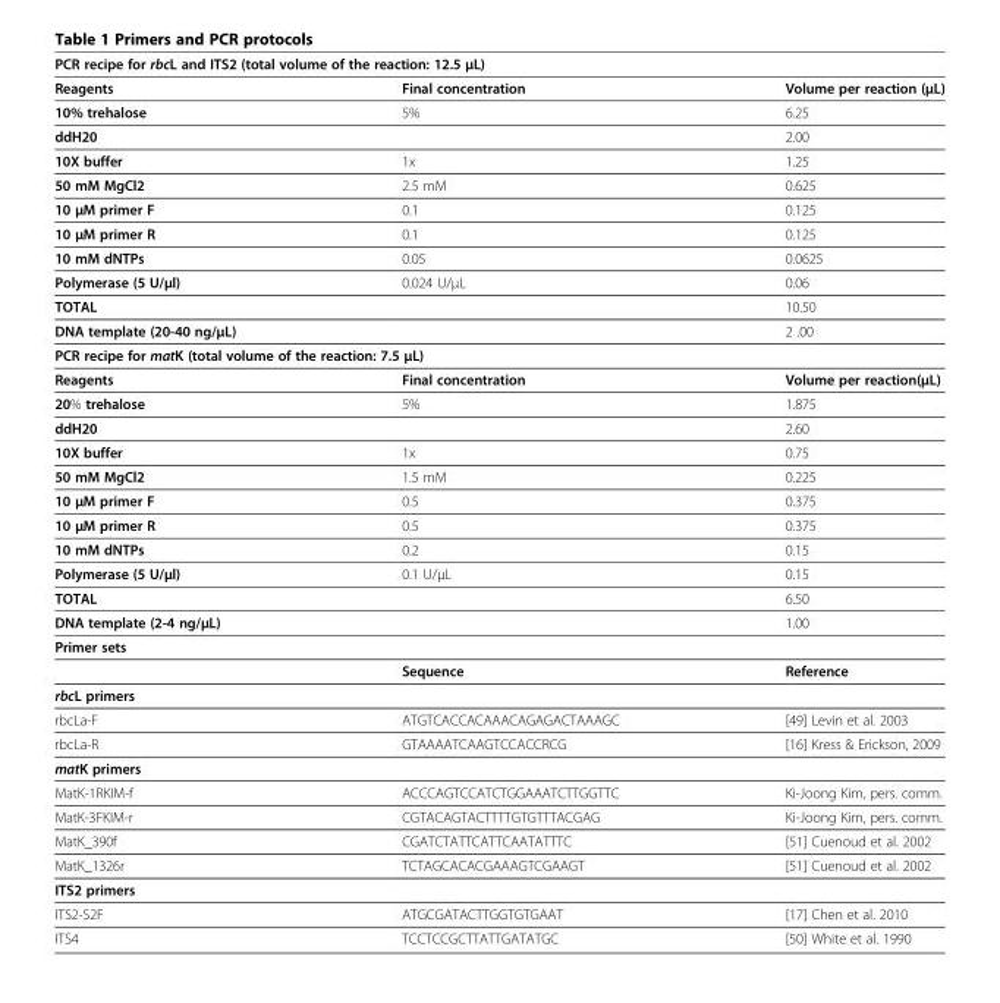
<table><tbody><tr><td colspan="3">PCR recipe for rbcL and ITS2 (total volume of the reaction: 12.5 μL)</td></tr><tr><td>Reagents</td><td>Final concentration</td><td>Volume per reaction (μL)</td></tr><tr><td>10% trehalose</td><td>5%</td><td>6.25</td></tr><tr><td>ddH20</td><td></td><td>2.00</td></tr><tr><td>10X buffer</td><td>1x</td><td>1.25</td></tr><tr><td>50 mM MgCl2</td><td>2.5 mM</td><td>0.625</td></tr><tr><td>10 μM primer F</td><td>0.1</td><td>0.125</td></tr><tr><td>10 μM primer R</td><td>0.1</td><td>0.125</td></tr><tr><td>10 mM dNTPs</td><td>0.05</td><td>0.0625</td></tr><tr><td>Polymerase (5 U/μl)</td><td>0.024 U/μL</td><td>0.06</td></tr><tr><td>TOTAL</td><td></td><td>10.50</td></tr><tr><td>DNA template (20-40 ng/μL)</td><td></td><td>2 .00</td></tr><tr><td colspan="3">PCR recipe for matK (total volume of the reaction: 7.5 μL)</td></tr><tr><td>Reagents</td><td>Final concentration</td><td>Volume per reaction(μL)</td></tr><tr><td>20% trehalose</td><td>5%</td><td>1.875</td></tr><tr><td>ddH20</td><td></td><td>2.60</td></tr><tr><td>10X buffer</td><td>1x</td><td>0.75</td></tr><tr><td>50 mM MgCl2</td><td>1.5 mM</td><td>0.225</td></tr><tr><td>10 μM primer F</td><td>0.5</td><td>0.375</td></tr><tr><td>10 μM primer R</td><td>0.5</td><td>0.375</td></tr><tr><td>10 mM dNTPs</td><td>0.2</td><td>0.15</td></tr><tr><td>Polymerase (5 U/μl)</td><td>0.1 U/μL</td><td>0.15</td></tr><tr><td>TOTAL</td><td></td><td>6.50</td></tr><tr><td>DNA template (2-4 ng/μL)</td><td></td><td>1.00</td></tr><tr><td colspan="3">Primer sets</td></tr><tr><td></td><td>Sequence</td><td>Reference</td></tr><tr><td colspan="3">rbcL primers</td></tr><tr><td>rbcLa-F</td><td>ATGTCACCACAAACAGAGACTAAAGC</td><td>[49] Levin et al. 2003</td></tr><tr><td>rbcLa-R</td><td>GTAAAATCAAGTCCACCRCG</td><td>[16] Kress &amp; Erickson, 2009</td></tr><tr><td colspan="3">matK primers</td></tr><tr><td>MatK-1RKIM-f</td><td>ACCCAGTCCATCTGGAAATCTTGGTTC</td><td>Ki-Joong Kim, pers. comm.</td></tr><tr><td>MatK-3FKIM-r</td><td>CGTACAGTACTTTTGTGTTTACGAG</td><td>Ki-Joong Kim, pers. comm.</td></tr><tr><td>MatK_390f</td><td>CGATCTATTCATTCAATATTTC</td><td>[51] Cuenoud et al. 2002</td></tr><tr><td>MatK_1326r</td><td>TCTAGCACACGAAAGTCGAAGT</td><td>[51] Cuenoud et al. 2002</td></tr><tr><td colspan="3">ITS2 primers</td></tr><tr><td>ITS2-S2F</td><td>ATGCGATACTTGGTGTGAAT</td><td>[17] Chen et al. 2010</td></tr><tr><td>ITS4</td><td>TCCTCCGCTTATTGATATGC</td><td>[50] White et al. 1990</td></tr></tbody></table>